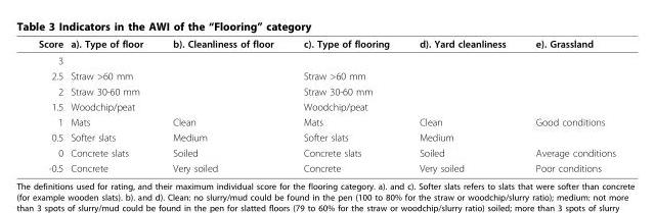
<table><thead><tr><td>Score</td><td>a). Type of floor</td><td>b). Cleanliness of floor</td><td>c). Type of flooring</td><td>d). Yard cleanliness</td><td>e). Grassland</td></tr></thead><tbody><tr><td colspan="6">3</td></tr><tr><td>2.5</td><td>Straw &gt;60 mm</td><td></td><td>Straw &gt;60 mm</td><td></td><td></td></tr><tr><td>2</td><td>Straw 30-60 mm</td><td></td><td>Straw 30-60 mm</td><td></td><td></td></tr><tr><td>1.5</td><td>Woodchip/peat</td><td></td><td>Woodchip/peat</td><td></td><td></td></tr><tr><td>1</td><td>Mats</td><td>Clean</td><td>Mats</td><td>Clean</td><td>Good conditions</td></tr><tr><td>0.5</td><td>Softer slats</td><td>Medium</td><td>Softer slats</td><td>Medium</td><td></td></tr><tr><td>0</td><td>Concrete slats</td><td>Soiled</td><td>Concrete slats</td><td>Soiled</td><td>Average conditions</td></tr><tr><td>-0.5</td><td>Concrete</td><td>Very soiled</td><td>Concrete</td><td>Very soiled</td><td>Poor conditions</td></tr></tbody></table>